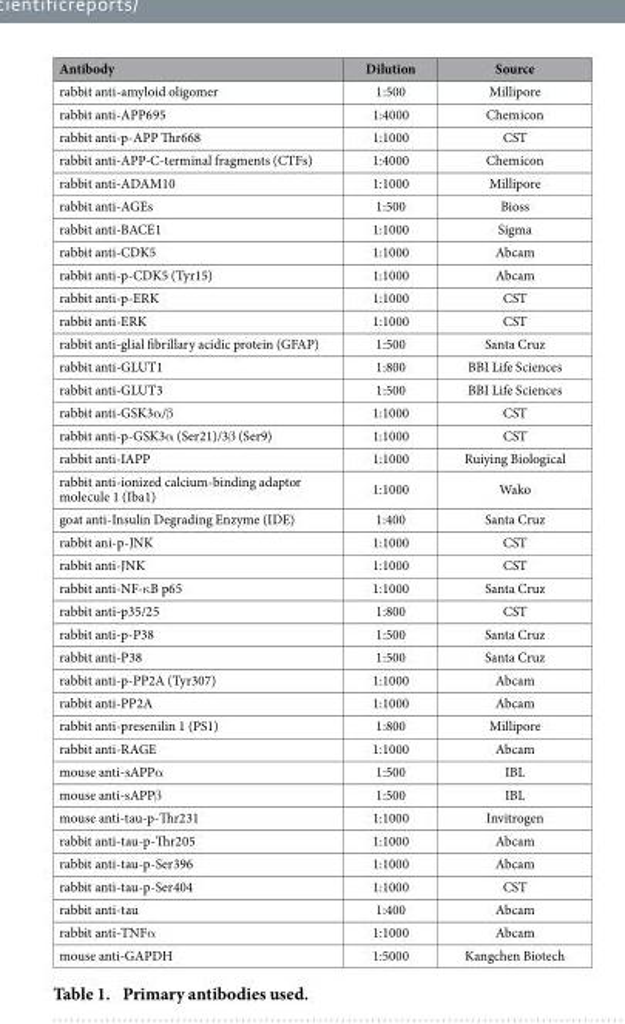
<table><thead><tr><td>Antibody</td><td>Dilution</td><td>Source</td></tr></thead><tbody><tr><td>rabbit anti-amyloid oligomer</td><td>1:500</td><td>Millipore</td></tr><tr><td>rabbit anti-APP695</td><td>1:4000</td><td>Chemicon</td></tr><tr><td>rabbit anti-p-APP Thr668</td><td>1:1000</td><td>CST</td></tr><tr><td>rabbit anti-APP-C-terminal fragments (CTFs)</td><td>1:4000</td><td>Chemicon</td></tr><tr><td>rabbit anti-ADAM10</td><td>1:1000</td><td>Millipore</td></tr><tr><td>rabbit anti-AGEs</td><td>1:500</td><td>Bioss</td></tr><tr><td>rabbit anti-BACE1</td><td>1:1000</td><td>Sigma</td></tr><tr><td>rabbit anti-CDK5</td><td>1:1000</td><td>Abcam</td></tr><tr><td>rabbit anti-p-CDK5 (Tyr15)</td><td>1:1000</td><td>Abcam</td></tr><tr><td>rabbit anti-p-ERK</td><td>1:1000</td><td>CST</td></tr><tr><td>rabbit anti-ERK</td><td>1:1000</td><td>CST</td></tr><tr><td>rabbit anti-glial fibrillary acidic protein (GFAP)</td><td>1:500</td><td>Santa Cruz</td></tr><tr><td>rabbit anti-GLUT1</td><td>1:800</td><td>BBI Life Sciences</td></tr><tr><td>rabbit anti-GLUT3</td><td>1:500</td><td>BBI Life Sciences</td></tr><tr><td>rabbit anti-GSK3α /β</td><td>1:1000</td><td>CST</td></tr><tr><td>rabbit anti-p-GSK3α (Ser21)/3β (Ser9)</td><td>1:1000</td><td>CST</td></tr><tr><td>rabbit anti-IAPP</td><td>1:1000</td><td>Ruiying Biological</td></tr><tr><td>rabbit anti-ionized calcium-binding adaptor molecule 1 (Iba1)</td><td>1:1000</td><td>Wako</td></tr><tr><td>goat anti-Insulin Degrading Enzyme (IDE)</td><td>1:400</td><td>Santa Cruz</td></tr><tr><td>rabbit ani-p-JNK</td><td>1:1000</td><td>CST</td></tr><tr><td>rabbit anti-JNK</td><td>1:1000</td><td>CST</td></tr><tr><td>rabbit anti-NF-κ B p65</td><td>1:1000</td><td>Santa Cruz</td></tr><tr><td>rabbit anti-p35/25</td><td>1:800</td><td>CST</td></tr><tr><td>rabbit anti-p-P38</td><td>1:500</td><td>Santa Cruz</td></tr><tr><td>rabbit anti-P38</td><td>1:500</td><td>Santa Cruz</td></tr><tr><td>rabbit anti-p-PP2A (Tyr307)</td><td>1:1000</td><td>Abcam</td></tr><tr><td>rabbit anti-PP2A</td><td>1:1000</td><td>Abcam</td></tr><tr><td>rabbit anti-presenilin 1 (PS1)</td><td>1:800</td><td>Millipore</td></tr><tr><td>rabbit anti-RAGE</td><td>1:1000</td><td>Abcam</td></tr><tr><td>mouse anti-sAPPα</td><td>1:500</td><td>IBL</td></tr><tr><td>mouse anti-sAPPβ</td><td>1:500</td><td>IBL</td></tr><tr><td>mouse anti-tau-p-Thr231</td><td>1:1000</td><td>Invitrogen</td></tr><tr><td>rabbit anti-tau-p-Thr205</td><td>1:1000</td><td>Abcam</td></tr><tr><td>rabbit anti-tau-p-Ser396</td><td>1:1000</td><td>Abcam</td></tr><tr><td>rabbit anti-tau-p-Ser404</td><td>1:1000</td><td>CST</td></tr><tr><td>rabbit anti-tau</td><td>1:400</td><td>Abcam</td></tr><tr><td>rabbit anti-TNFα</td><td>1:1000</td><td>Abcam</td></tr><tr><td>mouse anti-GAPDH</td><td>1:5000</td><td>Kangchen Biotech</td></tr></tbody></table>